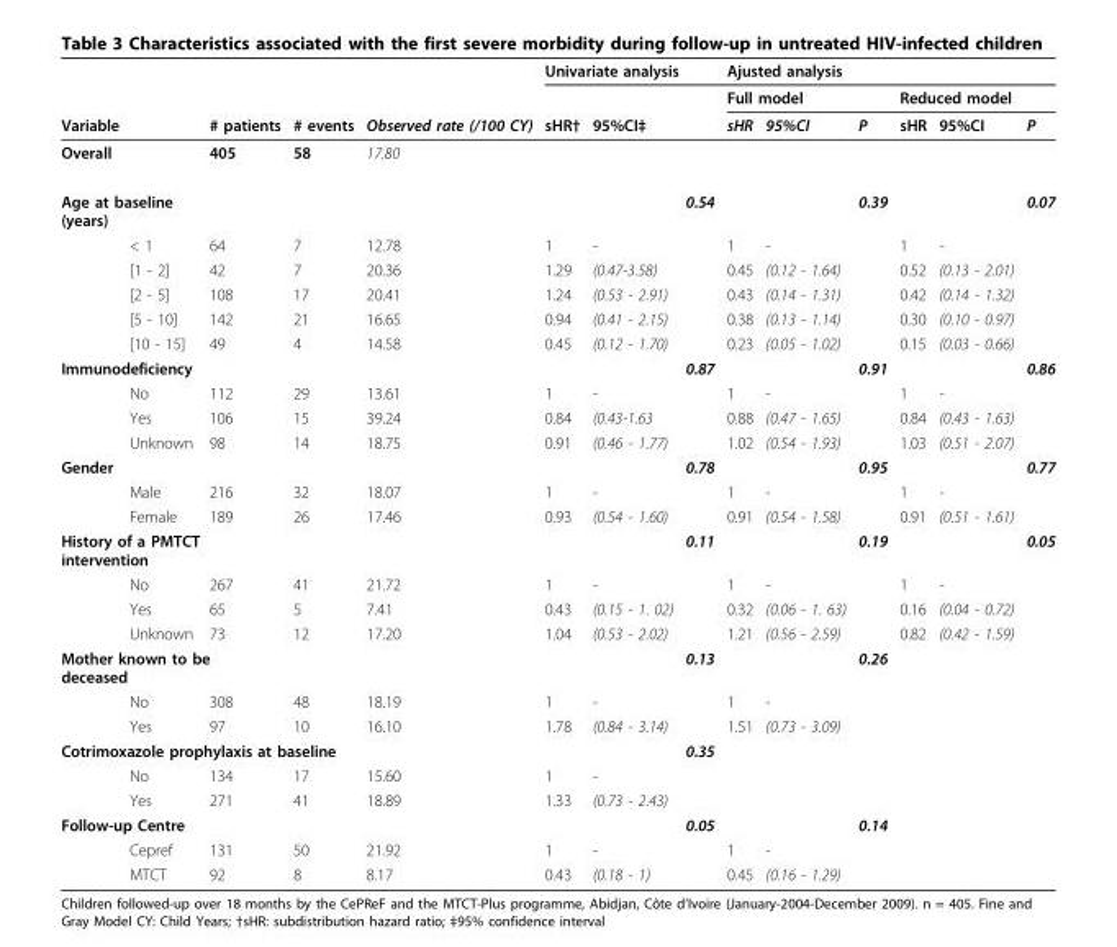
<table><thead><tr><td rowspan="2"></td><td rowspan="2"></td><td rowspan="3"># patients</td><td rowspan="3"># events</td><td rowspan="3">Observed rate (/100 CY)</td><td colspan="3">Univariate analysis</td><td colspan="6">Ajusted analysis</td></tr><tr><td rowspan="2">sHR†</td><td rowspan="2">95%CI‡</td><td rowspan="2"></td><td colspan="3">Full model</td><td colspan="3">Reduced model</td></tr><tr><td colspan="2">Variable</td><td>sHR</td><td>95%CI</td><td>P</td><td>sHR</td><td>95%CI</td><td>P</td></tr></thead><tbody><tr><td>Overall</td><td></td><td>405</td><td>58</td><td>17.80</td><td></td><td></td><td></td><td></td><td></td><td></td><td></td><td></td><td></td></tr><tr><td colspan="2">Age at baseline (years)</td><td></td><td></td><td></td><td></td><td></td><td>0.54</td><td></td><td></td><td>0.39</td><td></td><td></td><td>0.07</td></tr><tr><td></td><td>&lt; 1</td><td>64</td><td>7</td><td>12.78</td><td>1</td><td>-</td><td></td><td>1</td><td>-</td><td></td><td>1</td><td>-</td><td></td></tr><tr><td></td><td>[1 - 2]</td><td>42</td><td>7</td><td>20.36</td><td>1.29</td><td>(0.47-3.58)</td><td></td><td>0.45</td><td>(0.12 - 1.64)</td><td></td><td>0.52</td><td>(0.13 - 2.01)</td><td></td></tr><tr><td></td><td>[2 - 5]</td><td>108</td><td>17</td><td>20.41</td><td>1.24</td><td>(0.53 - 2.91)</td><td></td><td>0.43</td><td>(0.14 - 1.31)</td><td></td><td>0.42</td><td>(0.14 - 1.32)</td><td></td></tr><tr><td></td><td>[5 - 10]</td><td>142</td><td>21</td><td>16.65</td><td>0.94</td><td>(0.41 - 2.15)</td><td></td><td>0.38</td><td>(0.13 - 1.14)</td><td></td><td>0.30</td><td>(0.10 - 0.97)</td><td></td></tr><tr><td></td><td>[10 - 15]</td><td>49</td><td>4</td><td>14.58</td><td>0.45</td><td>(0.12 - 1.70)</td><td></td><td>0.23</td><td>(0.05 - 1.02)</td><td></td><td>0.15</td><td>(0.03 - 0.66)</td><td></td></tr><tr><td colspan="2">Immunodeficiency</td><td></td><td></td><td></td><td></td><td></td><td>0.87</td><td></td><td></td><td>0.91</td><td></td><td></td><td>0.86</td></tr><tr><td></td><td>No</td><td>112</td><td>29</td><td>13.61</td><td>1</td><td>-</td><td></td><td>1</td><td>-</td><td></td><td>1</td><td>-</td><td></td></tr><tr><td></td><td>Yes</td><td>106</td><td>15</td><td>39.24</td><td>0.84</td><td>(0.43-1.63</td><td></td><td>0.88</td><td>(0.47 - 1.65)</td><td></td><td>0.84</td><td>(0.43 - 1.63)</td><td></td></tr><tr><td></td><td>Unknown</td><td>98</td><td>14</td><td>18.75</td><td>0.91</td><td>(0.46 - 1.77)</td><td></td><td>1.02</td><td>(0.54 - 1.93)</td><td></td><td>1.03</td><td>(0.51 - 2.07)</td><td></td></tr><tr><td rowspan="3">Gender</td><td></td><td></td><td></td><td></td><td></td><td></td><td>0.78</td><td></td><td></td><td>0.95</td><td></td><td></td><td>0.77</td></tr><tr><td>Male</td><td>216</td><td>32</td><td>18.07</td><td>1</td><td>-</td><td></td><td>1</td><td>-</td><td></td><td>1</td><td>-</td><td></td></tr><tr><td>Female</td><td>189</td><td>26</td><td>17.46</td><td>0.93</td><td>(0.54 - 1.60)</td><td></td><td>0.91</td><td>(0.54 - 1.58)</td><td></td><td>0.91</td><td>(0.51 - 1.61)</td><td></td></tr><tr><td colspan="3">History of a PMTCT intervention</td><td></td><td></td><td></td><td></td><td>0.11</td><td></td><td></td><td>0.19</td><td></td><td></td><td>0.05</td></tr><tr><td></td><td>No</td><td>267</td><td>41</td><td>21.72</td><td>1</td><td>-</td><td></td><td>1</td><td>-</td><td></td><td>1</td><td>-</td><td></td></tr><tr><td></td><td>Yes</td><td>65</td><td>5</td><td>7.41</td><td>0.43</td><td>(0.15 - 1. 02)</td><td></td><td>0.32</td><td>(0.06 - 1. 63)</td><td></td><td>0.16</td><td>(0.04 - 0.72)</td><td></td></tr><tr><td></td><td>Unknown</td><td>73</td><td>12</td><td>17.20</td><td>1.04</td><td>(0.53 - 2.02)</td><td></td><td>1.21</td><td>(0.56 - 2.59)</td><td></td><td>0.82</td><td>(0.42 - 1.59)</td><td></td></tr><tr><td colspan="3">Mother known to be deceased</td><td></td><td></td><td></td><td></td><td>0.13</td><td></td><td></td><td>0.26</td><td></td><td></td><td></td></tr><tr><td></td><td>No</td><td>308</td><td>48</td><td>18.19</td><td>1</td><td>-</td><td></td><td>1</td><td>-</td><td></td><td></td><td></td><td></td></tr><tr><td></td><td>Yes</td><td>97</td><td>10</td><td>16.10</td><td>1.78</td><td>(0.84 - 3.14)</td><td></td><td>1.51</td><td>(0.73 - 3.09)</td><td></td><td></td><td></td><td></td></tr><tr><td colspan="4">Cotrimoxazole prophylaxis at baseline</td><td></td><td></td><td></td><td>0.35</td><td></td><td></td><td></td><td></td><td></td><td></td></tr><tr><td></td><td>No</td><td>134</td><td>17</td><td>15.60</td><td>1</td><td>-</td><td></td><td></td><td></td><td></td><td></td><td></td><td></td></tr><tr><td></td><td>Yes</td><td>271</td><td>41</td><td>18.89</td><td>1.33</td><td>(0.73 - 2.43)</td><td></td><td></td><td></td><td></td><td></td><td></td><td></td></tr><tr><td colspan="2">Follow-up Centre</td><td></td><td></td><td></td><td></td><td></td><td>0.05</td><td></td><td></td><td>0.14</td><td></td><td></td><td></td></tr><tr><td></td><td>Cepref</td><td>131</td><td>50</td><td>21.92</td><td>1</td><td>-</td><td></td><td>1</td><td>-</td><td></td><td></td><td></td><td></td></tr><tr><td></td><td>MTCT</td><td>92</td><td>8</td><td>8.17</td><td>0.43</td><td>(0.18 - 1)</td><td></td><td>0.45</td><td>(0.16 - 1.29)</td><td></td><td></td><td></td><td></td></tr></tbody></table>